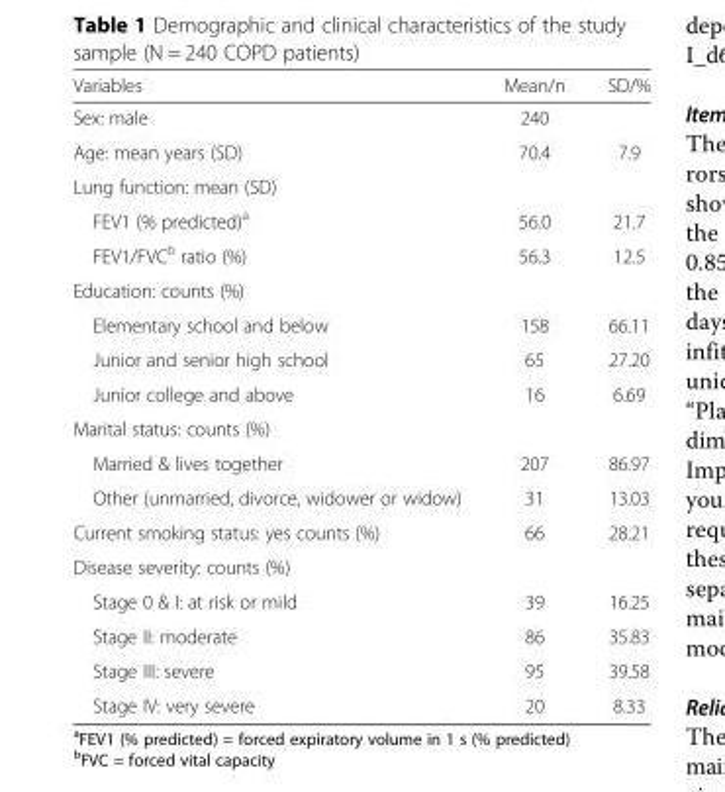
<table><thead><tr><td>Variables</td><td>Mean/n</td><td>SD/%</td></tr></thead><tbody><tr><td>Sex: male</td><td>240</td><td></td></tr><tr><td>Age: mean years (SD)</td><td>70.4</td><td>7.9</td></tr><tr><td colspan="3">Lung function: mean (SD)</td></tr><tr><td>FEV1 (% predicted)<sup>a</sup></td><td>56.0</td><td>21.7</td></tr><tr><td>FEV1/FVC<sup>b</sup> ratio (%)</td><td>56.3</td><td>12.5</td></tr><tr><td colspan="3">Education: counts (%)</td></tr><tr><td>Elementary school and below</td><td>158</td><td>66.11</td></tr><tr><td>Junior and senior high school</td><td>65</td><td>27.20</td></tr><tr><td>Junior college and above</td><td>16</td><td>6.69</td></tr><tr><td colspan="3">Marital status: counts (%)</td></tr><tr><td>Married &amp; lives together</td><td>207</td><td>86.97</td></tr><tr><td>Other (unmarried, divorce, widower or widow)</td><td>31</td><td>13.03</td></tr><tr><td>Current smoking status: yes counts (%)</td><td>66</td><td>28.21</td></tr><tr><td colspan="3">Disease severity: counts (%)</td></tr><tr><td>Stage 0 &amp; I: at risk or mild</td><td>39</td><td>16.25</td></tr><tr><td>Stage II: moderate</td><td>86</td><td>35.83</td></tr><tr><td>Stage III: severe</td><td>95</td><td>39.58</td></tr><tr><td>Stage IV: very severe</td><td>20</td><td>8.33</td></tr></tbody></table>